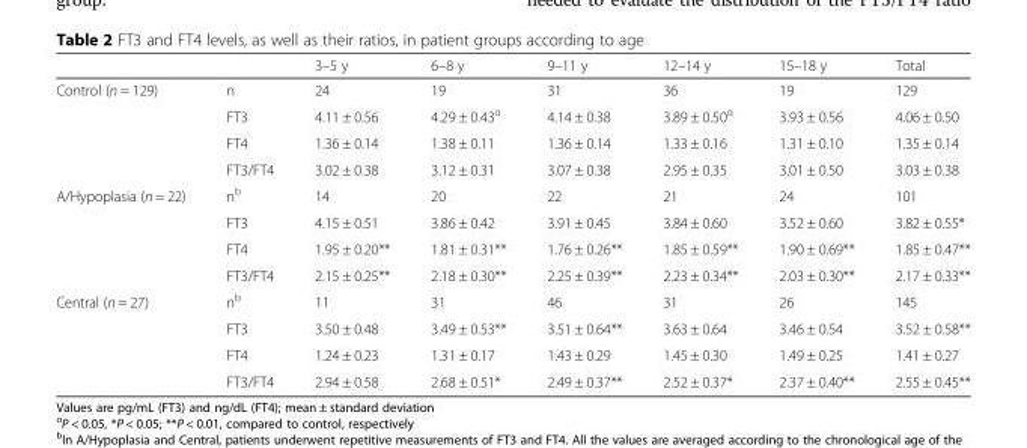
<table><thead><tr><td></td><td></td><td>3–5 y</td><td>6–8 y</td><td>9–11 y</td><td>12–14 y</td><td>15–18 y</td><td>Total</td></tr></thead><tbody><tr><td rowspan="4">Control (n = 129)</td><td>n</td><td>24</td><td>19</td><td>31</td><td>36</td><td>19</td><td>129</td></tr><tr><td>FT3</td><td>4.11 ± 0.56</td><td>4.29 ± 0.43<sup>α</sup></td><td>4.14 ± 0.38</td><td>3.89 ± 0.50<sup>α</sup></td><td>3.93 ± 0.56</td><td>4.06 ± 0.50</td></tr><tr><td>FT4</td><td>1.36 ± 0.14</td><td>1.38 ± 0.11</td><td>1.36 ± 0.14</td><td>1.33 ± 0.16</td><td>1.31 ± 0.10</td><td>1.35 ± 0.14</td></tr><tr><td>FT3/FT4</td><td>3.02 ± 0.38</td><td>3.12 ± 0.31</td><td>3.07 ± 0.38</td><td>2.95 ± 0.35</td><td>3.01 ± 0.50</td><td>3.03 ± 0.38</td></tr><tr><td rowspan="4">A/Hypoplasia (n = 22)</td><td>n<sup>b</sup></td><td>14</td><td>20</td><td>22</td><td>21</td><td>24</td><td>101</td></tr><tr><td>FT3</td><td>4.15 ± 0.51</td><td>3.86 ± 0.42</td><td>3.91 ± 0.45</td><td>3.84 ± 0.60</td><td>3.52 ± 0.60</td><td>3.82 ± 0.55*</td></tr><tr><td>FT4</td><td>1.95 ± 0.20**</td><td>1.81 ± 0.31**</td><td>1.76 ± 0.26**</td><td>1.85 ± 0.59**</td><td>1.90 ± 0.69**</td><td>1.85 ± 0.47**</td></tr><tr><td>FT3/FT4</td><td>2.15 ± 0.25**</td><td>2.18 ± 0.30**</td><td>2.25 ± 0.39**</td><td>2.23 ± 0.34**</td><td>2.03 ± 0.30**</td><td>2.17 ± 0.33**</td></tr><tr><td rowspan="4">Central (n = 27)</td><td>n<sup>b</sup></td><td>11</td><td>31</td><td>46</td><td>31</td><td>26</td><td>145</td></tr><tr><td>FT3</td><td>3.50 ± 0.48</td><td>3.49 ± 0.53**</td><td>3.51 ± 0.64**</td><td>3.63 ± 0.64</td><td>3.46 ± 0.54</td><td>3.52 ± 0.58**</td></tr><tr><td>FT4</td><td>1.24 ± 0.23</td><td>1.31 ± 0.17</td><td>1.43 ± 0.29</td><td>1.45 ± 0.30</td><td>1.49 ± 0.25</td><td>1.41 ± 0.27</td></tr><tr><td>FT3/FT4</td><td>2.94 ± 0.58</td><td>2.68 ± 0.51*</td><td>2.49 ± 0.37**</td><td>2.52 ± 0.37*</td><td>2.37 ± 0.40**</td><td>2.55 ± 0.45**</td></tr></tbody></table>